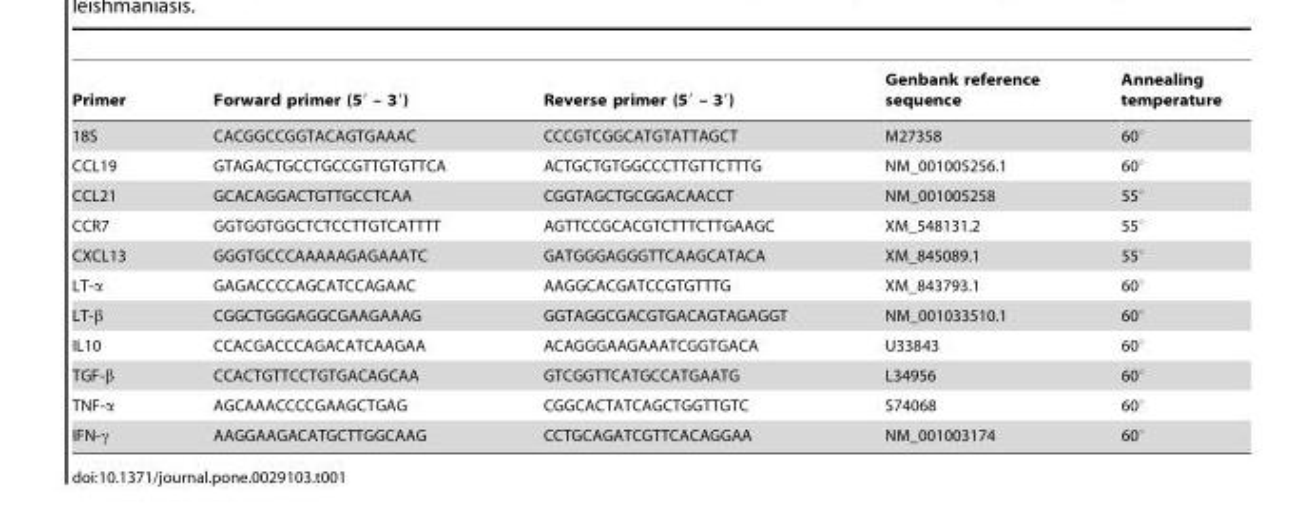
<table><thead><tr><td>Primer</td><td>Forward primer (5′ – 3′)</td><td>Reverse primer (5′ – 3′)</td><td>Genbank reference sequence</td><td>Annealing temperature</td></tr></thead><tbody><tr><td>18S</td><td>CACGGCCGGTACAGTGAAAC</td><td>CCCGTCGGCATGTATTAGCT</td><td>M27358</td><td>60°</td></tr><tr><td>CCL19</td><td>GTAGACTGCCTGCCGTTGTGTTCA</td><td>ACTGCTGTGGCCCTTGTTCTTTG</td><td>NM_001005256.1</td><td>60°</td></tr><tr><td>CCL21</td><td>GCACAGGACTGTTGCCTCAA</td><td>CGGTAGCTGCGGACAACCT</td><td>NM_001005258</td><td>55°</td></tr><tr><td>CCR7</td><td>GGTGGTGGCTCTCCTTGTCATTTT</td><td>AGTTCCGCACGTCTTTCTTGAAGC</td><td>XM_548131.2</td><td>55°</td></tr><tr><td>CXCL13</td><td>GGGTGCCCAAAAAGAGAAATC</td><td>GATGGGAGGGTTCAAGCATACA</td><td>XM_845089.1</td><td>55°</td></tr><tr><td>LT-α</td><td>GAGACCCCAGCATCCAGAAC</td><td>AAGGCACGATCCGTGTTTG</td><td>XM_843793.1</td><td>60°</td></tr><tr><td>LT-β</td><td>CGGCTGGGAGGCGAAGAAAG</td><td>GGTAGGCGACGTGACAGTAGAGGT</td><td>NM_001033510.1</td><td>60°</td></tr><tr><td>IL10</td><td>CCACGACCCAGACATCAAGAA</td><td>ACAGGGAAGAAATCGGTGACA</td><td>U33843</td><td>60°</td></tr><tr><td>TGF-β</td><td>CCACTGTTCCTGTGACAGCAA</td><td>GTCGGTTCATGCCATGAATG</td><td>L34956</td><td>60°</td></tr><tr><td>TNF-α</td><td>AGCAAACCCCGAAGCTGAG</td><td>CGGCACTATCAGCTGGTTGTC</td><td>S74068</td><td>60°</td></tr><tr><td>IFN-γ</td><td>AAGGAAGACATGCTTGGCAAG</td><td>CCTGCAGATCGTTCACAGGAA</td><td>NM_001003174</td><td>60°</td></tr></tbody></table>